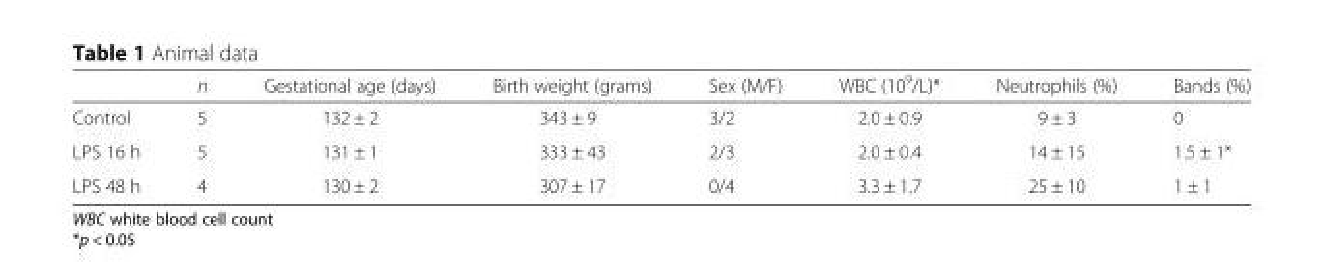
<table><thead><tr><td></td><td>n</td><td>Gestational age (days)</td><td>Birth weight (grams)</td><td>Sex (M/F)</td><td>WBC (10<sup>9</sup>/L)*</td><td>Neutrophils (%)</td><td>Bands (%)</td></tr></thead><tbody><tr><td>Control</td><td>5</td><td>132 ± 2</td><td>343 ± 9</td><td>3/2</td><td>2.0 ± 0.9</td><td>9 ± 3</td><td>0</td></tr><tr><td>LPS 16 h</td><td>5</td><td>131 ± 1</td><td>333 ± 43</td><td>2/3</td><td>2.0 ± 0.4</td><td>14 ± 15</td><td>1.5 ± 1*</td></tr><tr><td>LPS 48 h</td><td>4</td><td>130 ± 2</td><td>307 ± 17</td><td>0/4</td><td>3.3 ± 1.7</td><td>25 ± 10</td><td>1 ± 1</td></tr></tbody></table>